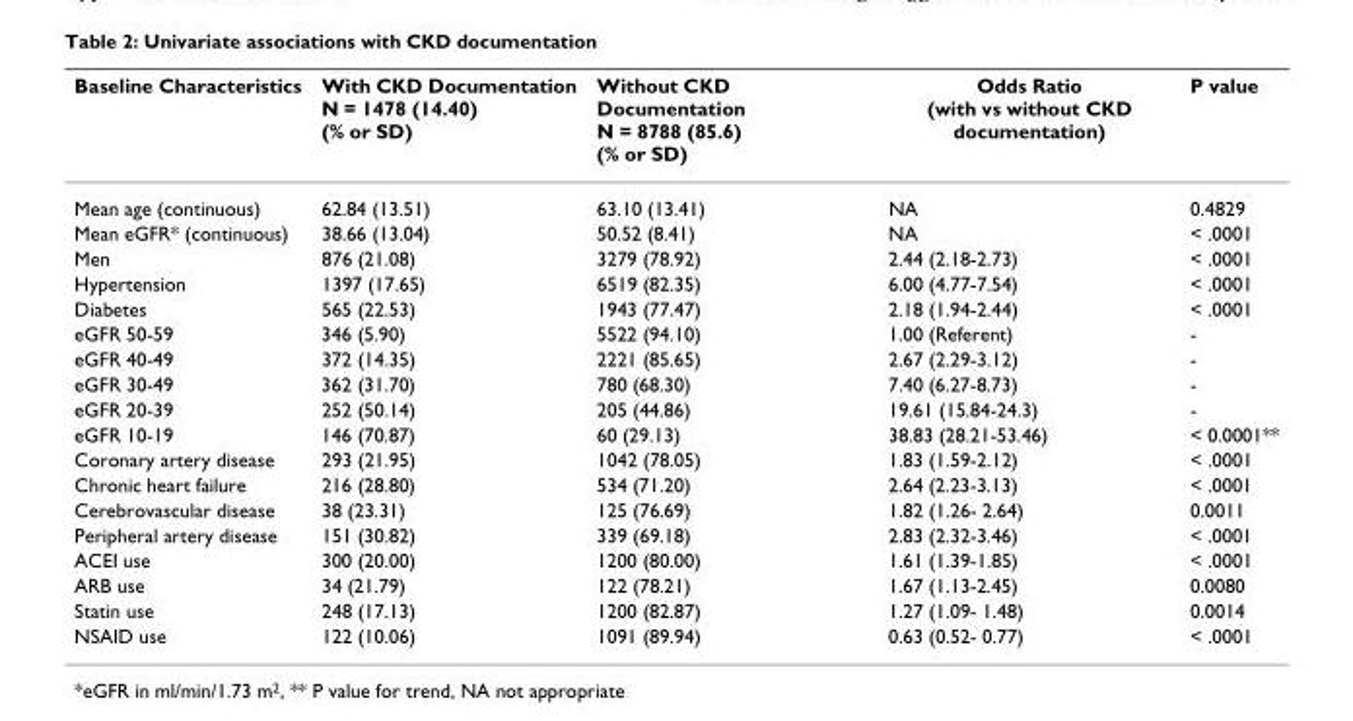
<table><thead><tr><td>Baseline Characteristics</td><td>With CKD Documentation N = 1478 (14.40) (% or SD)</td><td>Without CKD Documentation N = 8788 (85.6) (% or SD)</td><td>Odds Ratio (with vs without CKD documentation)</td><td>P value</td></tr></thead><tbody><tr><td>Mean age (continuous)</td><td>62.84 (13.51)</td><td>63.10 (13.41)</td><td>NA</td><td>0.4829</td></tr><tr><td>Mean eGFR* (continuous)</td><td>38.66 (13.04)</td><td>50.52 (8.41)</td><td>NA</td><td>&lt; .0001</td></tr><tr><td>Men</td><td>876 (21.08)</td><td>3279 (78.92)</td><td>2.44 (2.18-2.73)</td><td>&lt; .0001</td></tr><tr><td>Hypertension</td><td>1397 (17.65)</td><td>6519 (82.35)</td><td>6.00 (4.77-7.54)</td><td>&lt; .0001</td></tr><tr><td>Diabetes</td><td>565 (22.53)</td><td>1943 (77.47)</td><td>2.18 (1.94-2.44)</td><td>&lt; .0001</td></tr><tr><td>eGFR 50-59</td><td>346 (5.90)</td><td>5522 (94.10)</td><td>1.00 (Referent)</td><td>-</td></tr><tr><td>eGFR 40-49</td><td>372 (14.35)</td><td>2221 (85.65)</td><td>2.67 (2.29-3.12)</td><td>-</td></tr><tr><td>eGFR 30-49</td><td>362 (31.70)</td><td>780 (68.30)</td><td>7.40 (6.27-8.73)</td><td>-</td></tr><tr><td>eGFR 20-39</td><td>252 (50.14)</td><td>205 (44.86)</td><td>19.61 (15.84-24.3)</td><td>-</td></tr><tr><td>eGFR 10-19</td><td>146 (70.87)</td><td>60 (29.13)</td><td>38.83 (28.21-53.46)</td><td>&lt; 0.0001**</td></tr><tr><td>Coronary artery disease</td><td>293 (21.95)</td><td>1042 (78.05)</td><td>1.83 (1.59-2.12)</td><td>&lt; .0001</td></tr><tr><td>Chronic heart failure</td><td>216 (28.80)</td><td>534 (71.20)</td><td>2.64 (2.23-3.13)</td><td>&lt; .0001</td></tr><tr><td>Cerebrovascular disease</td><td>38 (23.31)</td><td>125 (76.69)</td><td>1.82 (1.26- 2.64)</td><td>0.0011</td></tr><tr><td>Peripheral artery disease</td><td>151 (30.82)</td><td>339 (69.18)</td><td>2.83 (2.32-3.46)</td><td>&lt; .0001</td></tr><tr><td>ACEI use</td><td>300 (20.00)</td><td>1200 (80.00)</td><td>1.61 (1.39-1.85)</td><td>&lt; .0001</td></tr><tr><td>ARB use</td><td>34 (21.79)</td><td>122 (78.21)</td><td>1.67 (1.13-2.45)</td><td>0.0080</td></tr><tr><td>Statin use</td><td>248 (17.13)</td><td>1200 (82.87)</td><td>1.27 (1.09- 1.48)</td><td>0.0014</td></tr><tr><td>NSAID use</td><td>122 (10.06)</td><td>1091 (89.94)</td><td>0.63 (0.52- 0.77)</td><td>&lt; .0001</td></tr></tbody></table>